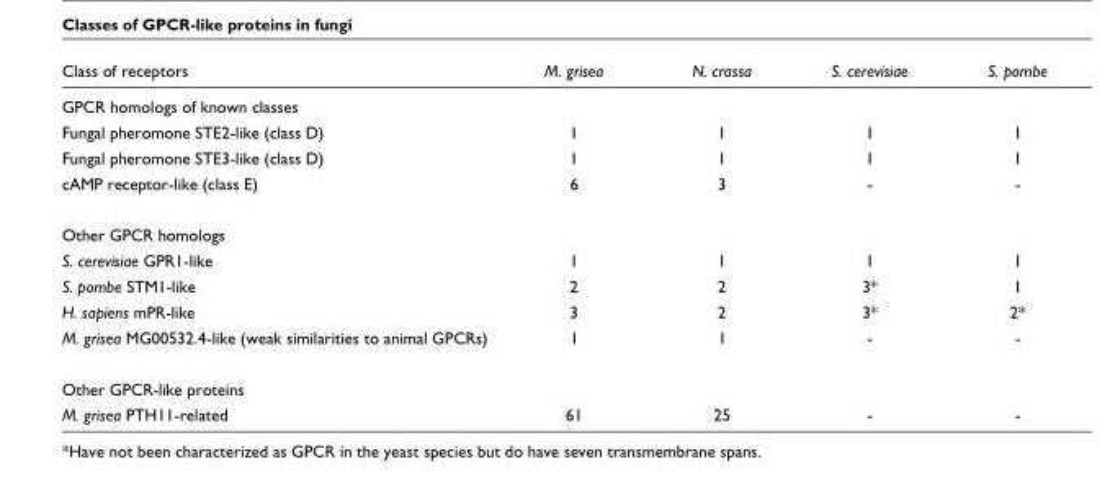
<table><thead><tr><td>Class of receptors</td><td>M. grisea</td><td>N. crassa</td><td>S. cerevisiae</td><td>S. pombe</td></tr></thead><tbody><tr><td colspan="5">GPCR homologs of known classes</td></tr><tr><td>Fungal pheromone STE2-like (class D)</td><td>1</td><td>1</td><td>1</td><td>1</td></tr><tr><td>Fungal pheromone STE3-like (class D)</td><td>1</td><td>1</td><td>1</td><td>1</td></tr><tr><td>cAMP receptor-like (class E)</td><td>6</td><td>3</td><td>-</td><td>-</td></tr><tr><td colspan="5">Other GPCR homologs</td></tr><tr><td>S. cerevisiae GPR1-like</td><td>1</td><td>1</td><td>1</td><td>1</td></tr><tr><td>S. pombe STM1-like</td><td>2</td><td>2</td><td>3*</td><td>1</td></tr><tr><td>H. sapiens mPR-like</td><td>3</td><td>2</td><td>3*</td><td>2*</td></tr><tr><td>M. grisea MG00532.4-like (weak similarities to animal GPCRs)</td><td>1</td><td>1</td><td>-</td><td>-</td></tr><tr><td colspan="5">Other GPCR-like proteins</td></tr><tr><td>M. grisea PTH11-related</td><td>61</td><td>25</td><td>-</td><td>-</td></tr></tbody></table>